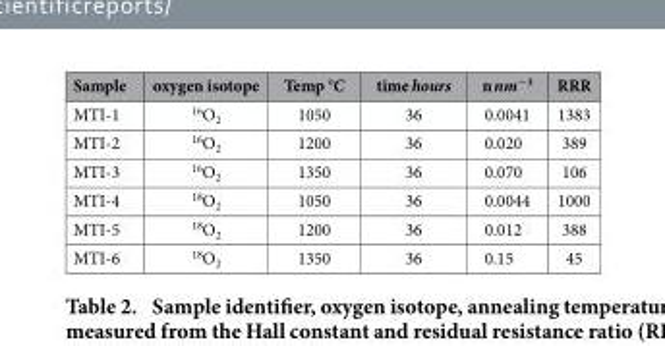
<table><thead><tr><td>Sample</td><td>oxygen isotope</td><td>Temp °C</td><td>time hours</td><td>n nm<sup>−3</sup></td><td>RRR</td></tr></thead><tbody><tr><td>MTI-1</td><td><sup>16</sup>O<sub>2</sub></td><td>1050</td><td>36</td><td>0.0041</td><td>1383</td></tr><tr><td>MTI-2</td><td><sup>16</sup>O<sub>2</sub></td><td>1200</td><td>36</td><td>0.020</td><td>389</td></tr><tr><td>MTI-3</td><td><sup>16</sup>O<sub>2</sub></td><td>1350</td><td>36</td><td>0.070</td><td>106</td></tr><tr><td>MTI-4</td><td><sup>18</sup>O<sub>2</sub></td><td>1050</td><td>36</td><td>0.0044</td><td>1000</td></tr><tr><td>MTI-5</td><td><sup>18</sup>O<sub>2</sub></td><td>1200</td><td>36</td><td>0.012</td><td>388</td></tr><tr><td>MTI-6</td><td><sup>18</sup>O<sub>2</sub></td><td>1350</td><td>36</td><td>0.15</td><td>45</td></tr></tbody></table>